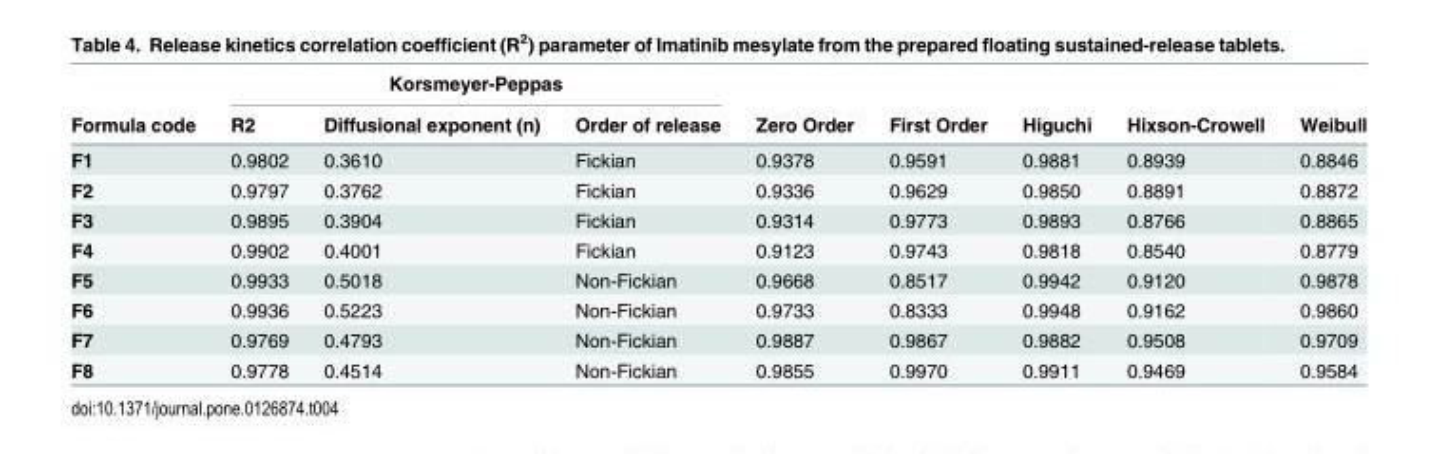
<table><thead><tr><td rowspan="2">Formula code</td><td colspan="3">Korsmeyer-Peppas</td><td rowspan="2">Zero Order</td><td rowspan="2">First Order</td><td rowspan="2">Higuchi</td><td rowspan="2">Hixson-Crowell</td><td rowspan="2">Weibull</td></tr><tr><td>R2</td><td>Diffusional exponent (n)</td><td>Order of release</td></tr></thead><tbody><tr><td>F1</td><td>0.9802</td><td>0.3610</td><td>Fickian</td><td>0.9378</td><td>0.9591</td><td>0.9881</td><td>0.8939</td><td>0.8846</td></tr><tr><td>F2</td><td>0.9797</td><td>0.3762</td><td>Fickian</td><td>0.9336</td><td>0.9629</td><td>0.9850</td><td>0.8891</td><td>0.8872</td></tr><tr><td>F3</td><td>0.9895</td><td>0.3904</td><td>Fickian</td><td>0.9314</td><td>0.9773</td><td>0.9893</td><td>0.8766</td><td>0.8865</td></tr><tr><td>F4</td><td>0.9902</td><td>0.4001</td><td>Fickian</td><td>0.9123</td><td>0.9743</td><td>0.9818</td><td>0.8540</td><td>0.8779</td></tr><tr><td>F5</td><td>0.9933</td><td>0.5018</td><td>Non-Fickian</td><td>0.9668</td><td>0.8517</td><td>0.9942</td><td>0.9120</td><td>0.9878</td></tr><tr><td>F6</td><td>0.9936</td><td>0.5223</td><td>Non-Fickian</td><td>0.9733</td><td>0.8333</td><td>0.9948</td><td>0.9162</td><td>0.9860</td></tr><tr><td>F7</td><td>0.9769</td><td>0.4793</td><td>Non-Fickian</td><td>0.9887</td><td>0.9867</td><td>0.9882</td><td>0.9508</td><td>0.9709</td></tr><tr><td>F8</td><td>0.9778</td><td>0.4514</td><td>Non-Fickian</td><td>0.9855</td><td>0.9970</td><td>0.9911</td><td>0.9469</td><td>0.9584</td></tr></tbody></table>